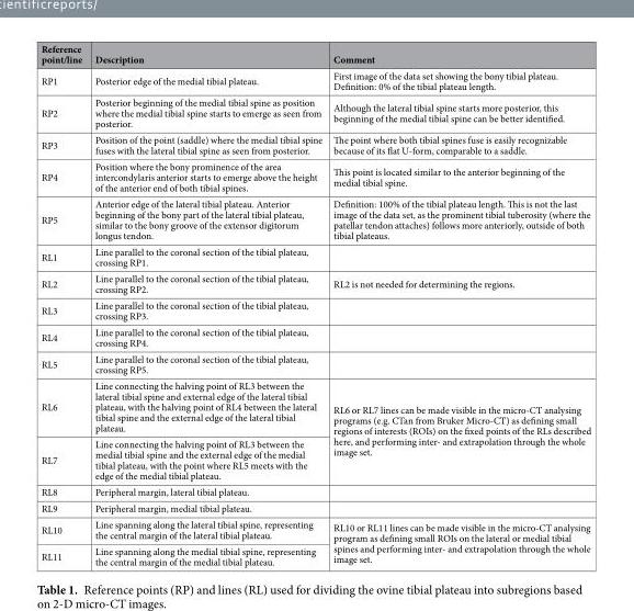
<table><thead><tr><td>Reference point/line</td><td>Description</td><td>Comment</td></tr></thead><tbody><tr><td>RP1</td><td>Posterior edge of the medial tibial plateau.</td><td>First image of the data set showing the bony tibial plateau. Definition: 0% of the tibial plateau length.</td></tr><tr><td>RP2</td><td>Posterior beginning of the medial tibial spine as position where the medial tibial spine starts to emerge as seen from posterior.</td><td>Although the lateral tibial spine starts more posterior, this beginning of the medial tibial spine can be better identified.</td></tr><tr><td>RP3</td><td>Position of the point (saddle) where the medial tibial spine fuses with the lateral tibial spine as seen from posterior.</td><td>The point where both tibial spines fuse is easily recognizable because of its flat U-form, comparable to a saddle.</td></tr><tr><td>RP4</td><td>Position where the bony prominence of the area intercondylaris anterior starts to emerge above the height of the anterior end of both tibial spines.</td><td>This point is located similar to the anterior beginning of the medial tibial spine.</td></tr><tr><td>RP5</td><td>Anterior edge of the lateral tibial plateau. Anterior beginning of the bony part of the lateral tibial plateau, similar to the bony groove of the extensor digitorum longus tendon.</td><td>Definition: 100% of the tibial plateau length. This is not the last image of the data set, as the prominent tibial tuberosity (where the patellar tendon attaches) follows more anteriorly, outside of both tibial plateaus.</td></tr><tr><td>RL1</td><td>Line parallel to the coronal section of the tibial plateau, crossing RP1.</td><td></td></tr><tr><td>RL2</td><td>Line parallel to the coronal section of the tibial plateau, crossing RP2.</td><td>RL2 is not needed for determining the regions.</td></tr><tr><td>RL3</td><td>Line parallel to the coronal section of the tibial plateau, crossing RP3.</td><td></td></tr><tr><td>RL4</td><td>Line parallel to the coronal section of the tibial plateau, crossing RP4.</td><td></td></tr><tr><td>RL5</td><td>Line parallel to the coronal section of the tibial plateau, crossing RP5.</td><td></td></tr><tr><td>RL6</td><td>Line connecting the halving point of RL3 between the lateral tibial spine and external edge of the lateral tibial plateau, with the halving point of RL4 between the lateral tibial spine and the external edge of the lateral tibial plateau.</td><td rowspan="2">RL6 or RL7 lines can be made visible in the micro-CT analysing programs (e.g. CTan from Bruker Micro-CT) as defining small regions of interests (ROIs) on the fixed points of the RLs described here, and performing inter- and extrapolation through the whole image set.</td></tr><tr><td>RL7</td><td>Line connecting the halving point of RL3 between the medial tibial spine and the external edge of the medial tibial plateau, with the point where RL5 meets with the edge of the medial tibial plateau.</td></tr><tr><td>RL8</td><td>Peripheral margin, lateral tibial plateau.</td><td></td></tr><tr><td>RL9</td><td>Peripheral margin, medial tibial plateau.</td><td></td></tr><tr><td>RL10</td><td>Line spanning along the lateral tibial spine, representing the central margin of the lateral tibial plateau.</td><td rowspan="2">RL10 or RL11 lines can be made visible in the micro-CT analysing program as defining small ROIs on the lateral or medial tibial spines and performing inter- and extrapolation through the whole image set.</td></tr><tr><td>RL11</td><td>Line spanning along the medial tibial spine, representing the central margin of the medial tibial plateau.</td></tr></tbody></table>